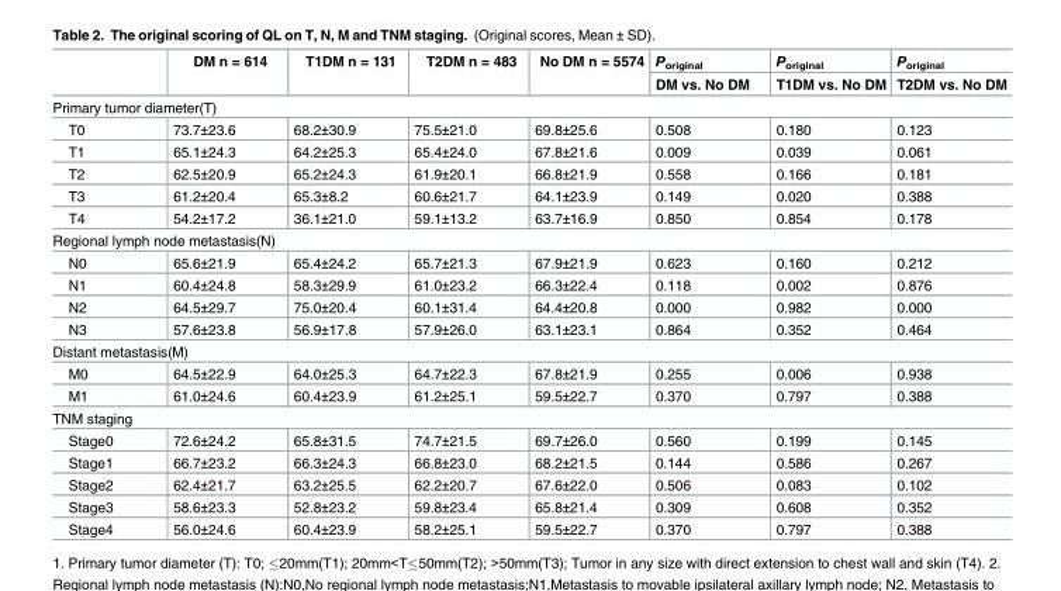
<table><thead><tr><td rowspan="2"></td><td rowspan="2">DM n = 614</td><td rowspan="2">T1DM n = 131</td><td rowspan="2">T2DM n = 483</td><td rowspan="2">No DM n = 5574</td><td rowspan="2">P<sub>original</sub> DM vs. No DM</td><td rowspan="2">P<sub>original</sub> T1DM vs. No DM</td><td rowspan="2">P<sub>original</sub> T2DM vs. No DM</td></tr><tr></tr></thead><tbody><tr><td colspan="8">Primary tumor diameter(T)</td></tr><tr><td>T0</td><td>73.7±23.6</td><td>68.2±30.9</td><td>75.5±21.0</td><td>69.8±25.6</td><td>0.508</td><td>0.180</td><td>0.123</td></tr><tr><td>T1</td><td>65.1±24.3</td><td>64.2±25.3</td><td>65.4±24.0</td><td>67.8±21.6</td><td>0.009</td><td>0.039</td><td>0.061</td></tr><tr><td>T2</td><td>62.5±20.9</td><td>65.2±24.3</td><td>61.9±20.1</td><td>66.8±21.9</td><td>0.558</td><td>0.166</td><td>0.181</td></tr><tr><td>T3</td><td>61.2±20.4</td><td>65.3±8.2</td><td>60.6±21.7</td><td>64.1±23.9</td><td>0.149</td><td>0.020</td><td>0.388</td></tr><tr><td>T4</td><td>54.2±17.2</td><td>36.1±21.0</td><td>59.1±13.2</td><td>63.7±16.9</td><td>0.850</td><td>0.854</td><td>0.178</td></tr><tr><td colspan="8">Regional lymph node metastasis(N)</td></tr><tr><td>N0</td><td>65.6±21.9</td><td>65.4±24.2</td><td>65.7±21.3</td><td>67.9±21.9</td><td>0.623</td><td>0.160</td><td>0.212</td></tr><tr><td>N1</td><td>60.4±24.8</td><td>58.3±29.9</td><td>61.0±23.2</td><td>66.3±22.4</td><td>0.118</td><td>0.002</td><td>0.876</td></tr><tr><td>N2</td><td>64.5±29.7</td><td>75.0±20.4</td><td>60.1±31.4</td><td>64.4±20.8</td><td>0.000</td><td>0.982</td><td>0.000</td></tr><tr><td>N3</td><td>57.6±23.8</td><td>56.9±17.8</td><td>57.9±26.0</td><td>63.1±23.1</td><td>0.864</td><td>0.352</td><td>0.464</td></tr><tr><td colspan="8">Distant metastasis(M)</td></tr><tr><td>M0</td><td>64.5±22.9</td><td>64.0±25.3</td><td>64.7±22.3</td><td>67.8±21.9</td><td>0.255</td><td>0.006</td><td>0.938</td></tr><tr><td>M1</td><td>61.0±24.6</td><td>60.4±23.9</td><td>61.2±25.1</td><td>59.5±22.7</td><td>0.370</td><td>0.797</td><td>0.388</td></tr><tr><td colspan="8">TNM staging</td></tr><tr><td>Stage0</td><td>72.6±24.2</td><td>65.8±31.5</td><td>74.7±21.5</td><td>69.7±26.0</td><td>0.560</td><td>0.199</td><td>0.145</td></tr><tr><td>Stage1</td><td>66.7±23.2</td><td>66.3±24.3</td><td>66.8±23.0</td><td>68.2±21.5</td><td>0.144</td><td>0.586</td><td>0.267</td></tr><tr><td>Stage2</td><td>62.4±21.7</td><td>63.2±25.5</td><td>62.2±20.7</td><td>67.6±22.0</td><td>0.506</td><td>0.083</td><td>0.102</td></tr><tr><td>Stage3</td><td>58.6±23.3</td><td>52.8±23.2</td><td>59.8±23.4</td><td>65.8±21.4</td><td>0.309</td><td>0.608</td><td>0.352</td></tr><tr><td>Stage4</td><td>56.0±24.6</td><td>60.4±23.9</td><td>58.2±25.1</td><td>59.5±22.7</td><td>0.370</td><td>0.797</td><td>0.388</td></tr></tbody></table>